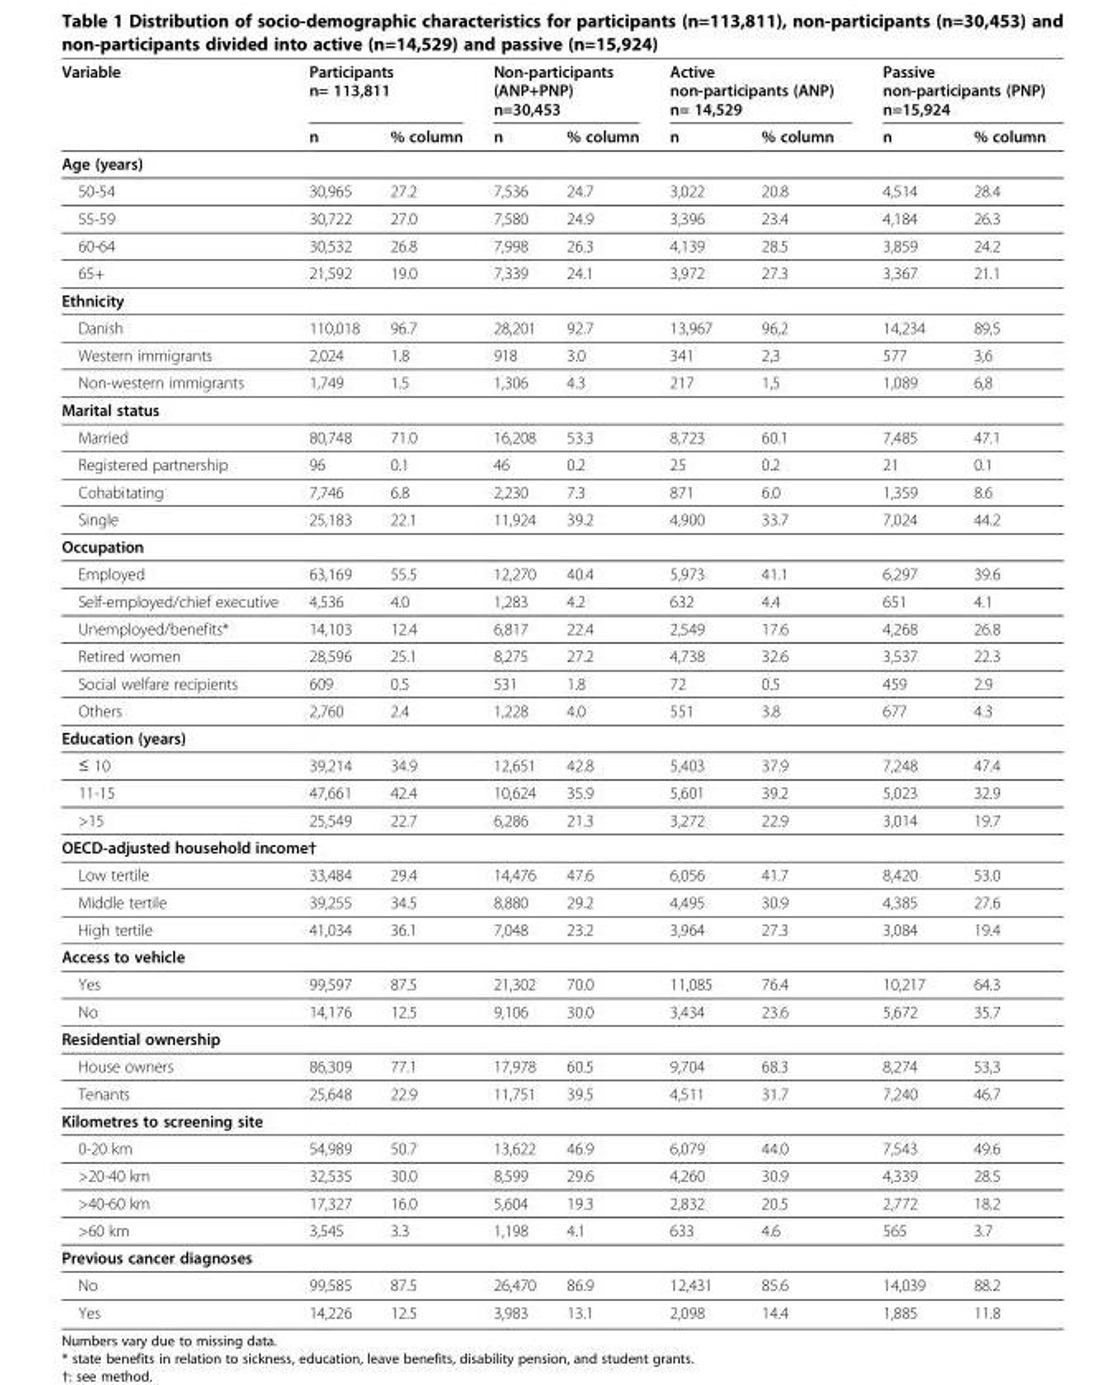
<table><thead><tr><td rowspan="2">Variable</td><td colspan="2">Participants n= 113,811</td><td colspan="2">Non-participants (ANP+PNP) n=30,453</td><td colspan="2">Active non-participants (ANP) n= 14,529</td><td colspan="2">Passive non-participants (PNP) n=15,924</td></tr><tr><td>n</td><td>% column</td><td>n</td><td>% column</td><td>n</td><td>% column</td><td>n</td><td>% column</td></tr></thead><tbody><tr><td colspan="9">Age (years)</td></tr><tr><td>50-54</td><td>30,965</td><td>27.2</td><td>7,536</td><td>24.7</td><td>3,022</td><td>20.8</td><td>4,514</td><td>28.4</td></tr><tr><td>55-59</td><td>30,722</td><td>27.0</td><td>7,580</td><td>24.9</td><td>3,396</td><td>23.4</td><td>4,184</td><td>26.3</td></tr><tr><td>60-64</td><td>30,532</td><td>26.8</td><td>7,998</td><td>26.3</td><td>4,139</td><td>28.5</td><td>3,859</td><td>24.2</td></tr><tr><td>65+</td><td>21,592</td><td>19.0</td><td>7,339</td><td>24.1</td><td>3,972</td><td>27.3</td><td>3,367</td><td>21.1</td></tr><tr><td colspan="9">Ethnicity</td></tr><tr><td>Danish</td><td>110,018</td><td>96.7</td><td>28,201</td><td>92.7</td><td>13,967</td><td>96,2</td><td>14,234</td><td>89,5</td></tr><tr><td>Western immigrants</td><td>2,024</td><td>1.8</td><td>918</td><td>3.0</td><td>341</td><td>2,3</td><td>577</td><td>3,6</td></tr><tr><td>Non-western immigrants</td><td>1,749</td><td>1.5</td><td>1,306</td><td>4.3</td><td>217</td><td>1,5</td><td>1,089</td><td>6,8</td></tr><tr><td colspan="9">Marital status</td></tr><tr><td>Married</td><td>80,748</td><td>71.0</td><td>16,208</td><td>53.3</td><td>8,723</td><td>60.1</td><td>7,485</td><td>47.1</td></tr><tr><td>Registered partnership</td><td>96</td><td>0.1</td><td>46</td><td>0.2</td><td>25</td><td>0.2</td><td>21</td><td>0.1</td></tr><tr><td>Cohabitating</td><td>7,746</td><td>6.8</td><td>2,230</td><td>7.3</td><td>871</td><td>6.0</td><td>1,359</td><td>8.6</td></tr><tr><td>Single</td><td>25,183</td><td>22.1</td><td>11,924</td><td>39.2</td><td>4,900</td><td>33.7</td><td>7,024</td><td>44.2</td></tr><tr><td colspan="9">Occupation</td></tr><tr><td>Employed</td><td>63,169</td><td>55.5</td><td>12,270</td><td>40.4</td><td>5,973</td><td>41.1</td><td>6,297</td><td>39.6</td></tr><tr><td>Self-employed/chief executive</td><td>4,536</td><td>4.0</td><td>1,283</td><td>4.2</td><td>632</td><td>4.4</td><td>651</td><td>4.1</td></tr><tr><td>Unemployed/benefits*</td><td>14,103</td><td>12.4</td><td>6,817</td><td>22.4</td><td>2,549</td><td>17.6</td><td>4,268</td><td>26.8</td></tr><tr><td>Retired women</td><td>28,596</td><td>25.1</td><td>8,275</td><td>27.2</td><td>4,738</td><td>32.6</td><td>3,537</td><td>22.3</td></tr><tr><td>Social welfare recipients</td><td>609</td><td>0.5</td><td>531</td><td>1.8</td><td>72</td><td>0.5</td><td>459</td><td>2.9</td></tr><tr><td>Others</td><td>2,760</td><td>2.4</td><td>1,228</td><td>4.0</td><td>551</td><td>3.8</td><td>677</td><td>4.3</td></tr><tr><td colspan="9">Education (years)</td></tr><tr><td>≤ 10</td><td>39,214</td><td>34.9</td><td>12,651</td><td>42.8</td><td>5,403</td><td>37.9</td><td>7,248</td><td>47.4</td></tr><tr><td>11-15</td><td>47,661</td><td>42.4</td><td>10,624</td><td>35.9</td><td>5,601</td><td>39.2</td><td>5,023</td><td>32.9</td></tr><tr><td>&gt;15</td><td>25,549</td><td>22.7</td><td>6,286</td><td>21.3</td><td>3,272</td><td>22.9</td><td>3,014</td><td>19.7</td></tr><tr><td colspan="9">OECD-adjusted household income†</td></tr><tr><td>Low tertile</td><td>33,484</td><td>29.4</td><td>14,476</td><td>47.6</td><td>6,056</td><td>41.7</td><td>8,420</td><td>53.0</td></tr><tr><td>Middle tertile</td><td>39,255</td><td>34.5</td><td>8,880</td><td>29.2</td><td>4,495</td><td>30.9</td><td>4,385</td><td>27.6</td></tr><tr><td>High tertile</td><td>41,034</td><td>36.1</td><td>7,048</td><td>23.2</td><td>3,964</td><td>27.3</td><td>3,084</td><td>19.4</td></tr><tr><td colspan="9">Access to vehicle</td></tr><tr><td>Yes</td><td>99,597</td><td>87.5</td><td>21,302</td><td>70.0</td><td>11,085</td><td>76.4</td><td>10,217</td><td>64.3</td></tr><tr><td>No</td><td>14,176</td><td>12.5</td><td>9,106</td><td>30.0</td><td>3,434</td><td>23.6</td><td>5,672</td><td>35.7</td></tr><tr><td colspan="9">Residential ownership</td></tr><tr><td>House owners</td><td>86,309</td><td>77.1</td><td>17,978</td><td>60.5</td><td>9,704</td><td>68.3</td><td>8,274</td><td>53,3</td></tr><tr><td>Tenants</td><td>25,648</td><td>22.9</td><td>11,751</td><td>39.5</td><td>4,511</td><td>31.7</td><td>7,240</td><td>46.7</td></tr><tr><td colspan="9">Kilometres to screening site</td></tr><tr><td>0-20 km</td><td>54,989</td><td>50.7</td><td>13,622</td><td>46.9</td><td>6,079</td><td>44.0</td><td>7,543</td><td>49.6</td></tr><tr><td>&gt;20-40 km</td><td>32,535</td><td>30.0</td><td>8,599</td><td>29.6</td><td>4,260</td><td>30.9</td><td>4,339</td><td>28.5</td></tr><tr><td>&gt;40-60 km</td><td>17,327</td><td>16.0</td><td>5,604</td><td>19.3</td><td>2,832</td><td>20.5</td><td>2,772</td><td>18.2</td></tr><tr><td>&gt;60 km</td><td>3,545</td><td>3.3</td><td>1,198</td><td>4.1</td><td>633</td><td>4.6</td><td>565</td><td>3.7</td></tr><tr><td colspan="9">Previous cancer diagnoses</td></tr><tr><td>No</td><td>99,585</td><td>87.5</td><td>26,470</td><td>86.9</td><td>12,431</td><td>85.6</td><td>14,039</td><td>88.2</td></tr><tr><td>Yes</td><td>14,226</td><td>12.5</td><td>3,983</td><td>13.1</td><td>2,098</td><td>14.4</td><td>1,885</td><td>11.8</td></tr></tbody></table>